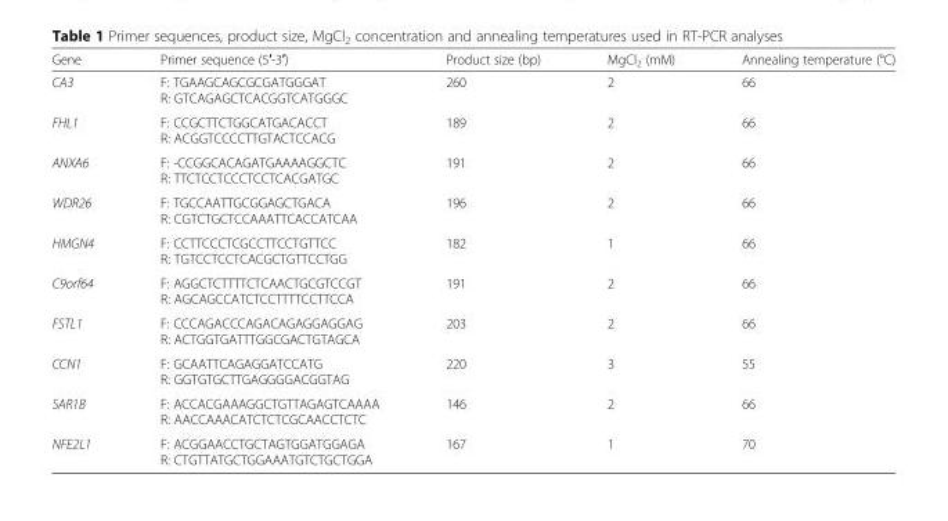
<table><thead><tr><td>Gene</td><td>Primer sequence (5′-3′)</td><td>Product size (bp)</td><td>MgCl<sub>2</sub> (mM)</td><td>Annealing temperature (°C)</td></tr></thead><tbody><tr><td>CA3</td><td>F: TGAAGCAGCGCGATGGGAT R: GTCAGAGCTCACGGTCATGGGC</td><td>260</td><td>2</td><td>66</td></tr><tr><td>FHL1</td><td>F: CCGCTTCTGGCATGACACCT R: ACGGTCCCCTTGTACTCCACG</td><td>189</td><td>2</td><td>66</td></tr><tr><td>ANXA6</td><td>F: -CCGGCACAGATGAAAAGGCTC R: TTCTCCTCCCTCCTCACGATGC</td><td>191</td><td>2</td><td>66</td></tr><tr><td>WDR26</td><td>F: TGCCAATTGCGGAGCTGACA R: CGTCTGCTCCAAATTCACCATCAA</td><td>196</td><td>2</td><td>66</td></tr><tr><td>HMGN4</td><td>F: CCTTCCCTCGCCTTCCTGTTCC R: TGTCCTCCTCACGCTGTTCCTGG</td><td>182</td><td>1</td><td>66</td></tr><tr><td>C9orf64</td><td>F: AGGCTCTTTTCTCAACTGCGTCCGT R: AGCAGCCATCTCCTTTTCCTTCCA</td><td>191</td><td>2</td><td>66</td></tr><tr><td>FSTL1</td><td>F: CCCAGACCCAGACAGAGGAGGAG R: ACTGGTGATTTGGCGACTGTAGCA</td><td>203</td><td>2</td><td>66</td></tr><tr><td>CCN1</td><td>F: GCAATTCAGAGGATCCATG R: GGTGTGCTTGAGGGGACGGTAG</td><td>220</td><td>3</td><td>55</td></tr><tr><td>SAR1B</td><td>F: ACCACGAAAGGCTGTTAGAGTCAAAA R: AACCAAACATCTCTCGCAACCTCTC</td><td>146</td><td>2</td><td>66</td></tr><tr><td>NFE2L1</td><td>F: ACGGAACCTGCTAGTGGATGGAGA R: CTGTTATGCTGGAAATGTCTGCTGGA</td><td>167</td><td>1</td><td>70</td></tr></tbody></table>